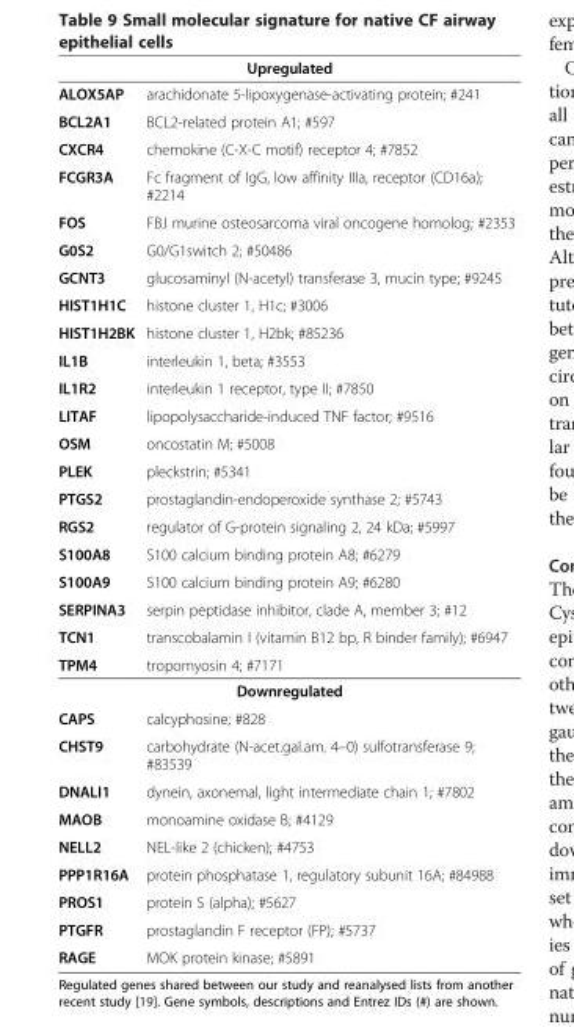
<table><thead><tr><td colspan="2">Upregulated</td></tr><tr><td>ALOX5AP</td><td>arachidonate 5-lipoxygenase-activating protein; #241</td></tr></thead><tbody><tr><td>BCL2A1</td><td>BCL2-related protein A1; #597</td></tr><tr><td>CXCR4</td><td>chemokine (C-X-C motif) receptor 4; #7852</td></tr><tr><td>FCGR3A</td><td>Fc fragment of IgG, low affinity IIIa, receptor (CD16a); #2214</td></tr><tr><td>FOS</td><td>FBJ murine osteosarcoma viral oncogene homolog; #2353</td></tr><tr><td>G0S2</td><td>G0/G1switch 2; #50486</td></tr><tr><td>GCNT3</td><td>glucosaminyl (N-acetyl) transferase 3, mucin type; #9245</td></tr><tr><td>HIST1H1C</td><td>histone cluster 1, H1c; #3006</td></tr><tr><td>HIST1H2BK</td><td>histone cluster 1, H2bk; #85236</td></tr><tr><td>IL1B</td><td>interleukin 1, beta; #3553</td></tr><tr><td>IL1R2</td><td>interleukin 1 receptor, type II; #7850</td></tr><tr><td>LITAF</td><td>lipopolysaccharide-induced TNF factor; #9516</td></tr><tr><td>OSM</td><td>oncostatin M; #5008</td></tr><tr><td>PLEK</td><td>pleckstrin; #5341</td></tr><tr><td>PTGS2</td><td>prostaglandin-endoperoxide synthase 2; #5743</td></tr><tr><td>RGS2</td><td>regulator of G-protein signaling 2, 24 kDa; #5997</td></tr><tr><td>S100A8</td><td>S100 calcium binding protein A8; #6279</td></tr><tr><td>S100A9</td><td>S100 calcium binding protein A9; #6280</td></tr><tr><td>SERPINA3</td><td>serpin peptidase inhibitor, clade A, member 3; #12</td></tr><tr><td>TCN1</td><td>transcobalamin I (vitamin B12 bp, R binder family); #6947</td></tr><tr><td>TPM4</td><td>tropomyosin 4; #7171</td></tr><tr><td colspan="2">Downregulated</td></tr><tr><td>CAPS</td><td>calcyphosine; #828</td></tr><tr><td>CHST9</td><td>carbohydrate (N-acet.gal.am. 4–0) sulfotransferase 9; #83539</td></tr><tr><td>DNALI1</td><td>dynein, axonemal, light intermediate chain 1; #7802</td></tr><tr><td>MAOB</td><td>monoamine oxidase B; #4129</td></tr><tr><td>NELL2</td><td>NEL-like 2 (chicken); #4753</td></tr><tr><td>PPP1R16A</td><td>protein phosphatase 1, regulatory subunit 16A; #84988</td></tr><tr><td>PROS1</td><td>protein S (alpha); #5627</td></tr><tr><td>PTGFR</td><td>prostaglandin F receptor (FP); #5737</td></tr><tr><td>RAGE</td><td>MOK protein kinase; #5891</td></tr></tbody></table>